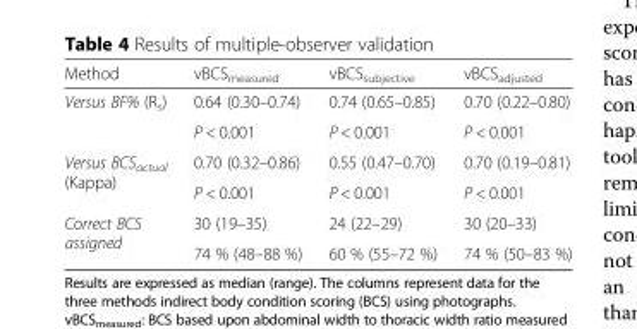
<table><thead><tr><td>Method</td><td>vBCS<sub>measured</sub></td><td>vBCS<sub>subjective</sub></td><td>vBCS<sub>adjusted</sub></td></tr></thead><tbody><tr><td rowspan="2">Versus BF% (R<sub>s</sub>)</td><td>0.64 (0.30–0.74)</td><td>0.74 (0.65–0.85)</td><td>0.70 (0.22–0.80)</td></tr><tr><td>P &lt; 0.001</td><td>P &lt; 0.001</td><td>P &lt; 0.001</td></tr><tr><td rowspan="2">Versus BCS<sub>actual</sub> (Kappa)</td><td>0.70 (0.32–0.86)</td><td>0.55 (0.47–0.70)</td><td>0.70 (0.19–0.81)</td></tr><tr><td>P &lt; 0.001</td><td>P &lt; 0.001</td><td>P &lt; 0.001</td></tr><tr><td rowspan="2">Correct BCS assigned</td><td>30 (19–35)</td><td>24 (22–29)</td><td>30 (20–33)</td></tr><tr><td>74 % (48–88 %)</td><td>60 % (55–72 %)</td><td>74 % (50–83 %)</td></tr></tbody></table>